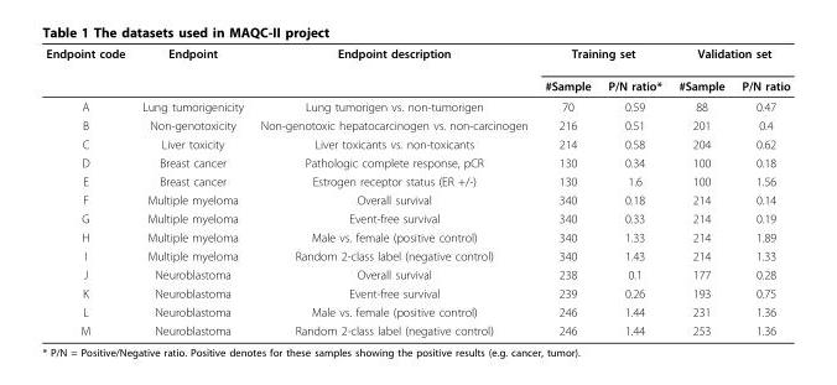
<table><thead><tr><td rowspan="2">Endpoint code</td><td rowspan="2">Endpoint</td><td rowspan="2">Endpoint description</td><td colspan="2">Training set</td><td colspan="2">Validation set</td></tr><tr><td>#Sample</td><td>P/N ratio*</td><td>#Sample</td><td>P/N ratio</td></tr></thead><tbody><tr><td>A</td><td>Lung tumorigenicity</td><td>Lung tumorigen vs. non-tumorigen</td><td>70</td><td>0.59</td><td>88</td><td>0.47</td></tr><tr><td>B</td><td>Non-genotoxicity</td><td>Non-genotoxic hepatocarcinogen vs. non-carcinogen</td><td>216</td><td>0.51</td><td>201</td><td>0.4</td></tr><tr><td>C</td><td>Liver toxicity</td><td>Liver toxicants vs. non-toxicants</td><td>214</td><td>0.58</td><td>204</td><td>0.62</td></tr><tr><td>D</td><td>Breast cancer</td><td>Pathologic complete response, pCR</td><td>130</td><td>0.34</td><td>100</td><td>0.18</td></tr><tr><td>E</td><td>Breast cancer</td><td>Estrogen receptor status (ER +/-)</td><td>130</td><td>1.6</td><td>100</td><td>1.56</td></tr><tr><td>F</td><td>Multiple myeloma</td><td>Overall survival</td><td>340</td><td>0.18</td><td>214</td><td>0.14</td></tr><tr><td>G</td><td>Multiple myeloma</td><td>Event-free survival</td><td>340</td><td>0.33</td><td>214</td><td>0.19</td></tr><tr><td>H</td><td>Multiple myeloma</td><td>Male vs. female (positive control)</td><td>340</td><td>1.33</td><td>214</td><td>1.89</td></tr><tr><td>I</td><td>Multiple myeloma</td><td>Random 2-class label (negative control)</td><td>340</td><td>1.43</td><td>214</td><td>1.33</td></tr><tr><td>J</td><td>Neuroblastoma</td><td>Overall survival</td><td>238</td><td>0.1</td><td>177</td><td>0.28</td></tr><tr><td>K</td><td>Neuroblastoma</td><td>Event-free survival</td><td>239</td><td>0.26</td><td>193</td><td>0.75</td></tr><tr><td>L</td><td>Neuroblastoma</td><td>Male vs. female (positive control)</td><td>246</td><td>1.44</td><td>231</td><td>1.36</td></tr><tr><td>M</td><td>Neuroblastoma</td><td>Random 2-class label (negative control)</td><td>246</td><td>1.44</td><td>253</td><td>1.36</td></tr></tbody></table>